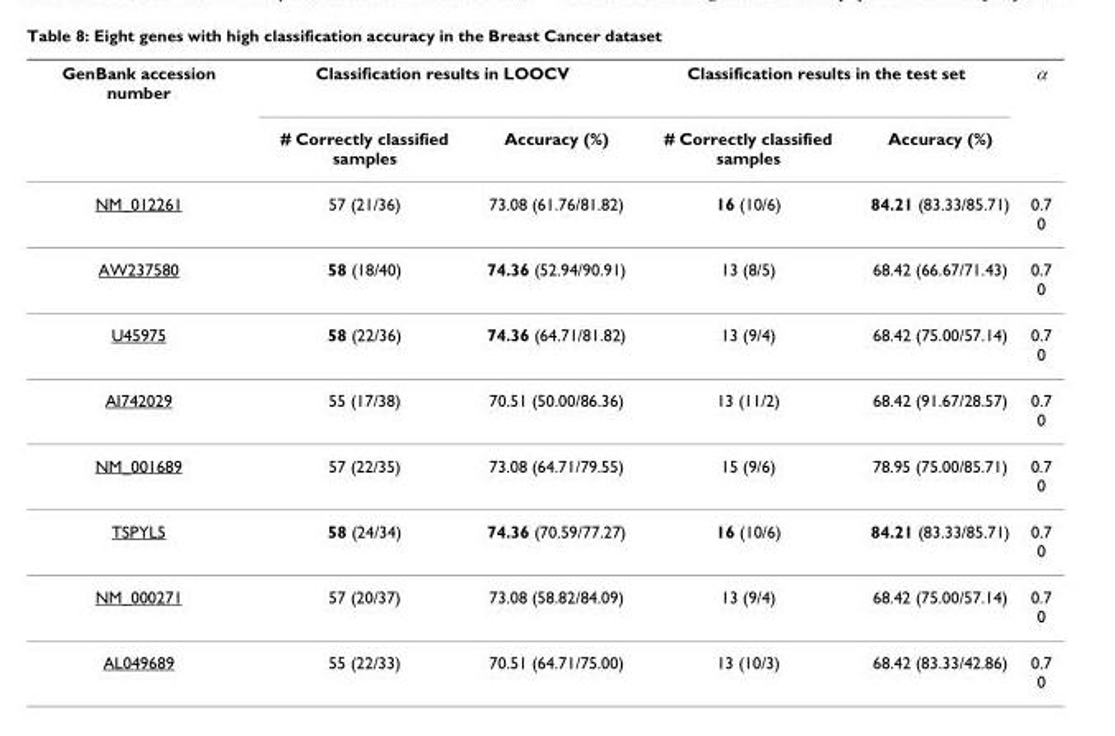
<table><thead><tr><td rowspan="2">GenBank accession number</td><td colspan="2">Classification results in LOOCV</td><td colspan="2">Classification results in the test set</td><td rowspan="2">α</td></tr><tr><td># Correctly classified samples</td><td>Accuracy (%)</td><td># Correctly classified samples</td><td>Accuracy (%)</td></tr></thead><tbody><tr><td>NM_012261</td><td>57 (21/36)</td><td>73.08 (61.76/81.82)</td><td>16 (10/6)</td><td>84.21 (83.33/85.71)</td><td>0.7 0</td></tr><tr><td>AW237580</td><td>58 (18/40)</td><td>74.36 (52.94/90.91)</td><td>13 (8/5)</td><td>68.42 (66.67/71.43)</td><td>0.7 0</td></tr><tr><td>U45975</td><td>58 (22/36)</td><td>74.36 (64.71/81.82)</td><td>13 (9/4)</td><td>68.42 (75.00/57.14)</td><td>0.7 0</td></tr><tr><td>AI742029</td><td>55 (17/38)</td><td>70.51 (50.00/86.36)</td><td>13 (11/2)</td><td>68.42 (91.67/28.57)</td><td>0.7 0</td></tr><tr><td>NM_001689</td><td>57 (22/35)</td><td>73.08 (64.71/79.55)</td><td>15 (9/6)</td><td>78.95 (75.00/85.71)</td><td>0.7 0</td></tr><tr><td>TSPYL5</td><td>58 (24/34)</td><td>74.36 (70.59/77.27)</td><td>16 (10/6)</td><td>84.21 (83.33/85.71)</td><td>0.7 0</td></tr><tr><td>NM_000271</td><td>57 (20/37)</td><td>73.08 (58.82/84.09)</td><td>13 (9/4)</td><td>68.42 (75.00/57.14)</td><td>0.7 0</td></tr><tr><td>AL049689</td><td>55 (22/33)</td><td>70.51 (64.71/75.00)</td><td>13 (10/3)</td><td>68.42 (83.33/42.86)</td><td>0.7</td></tr></tbody></table>